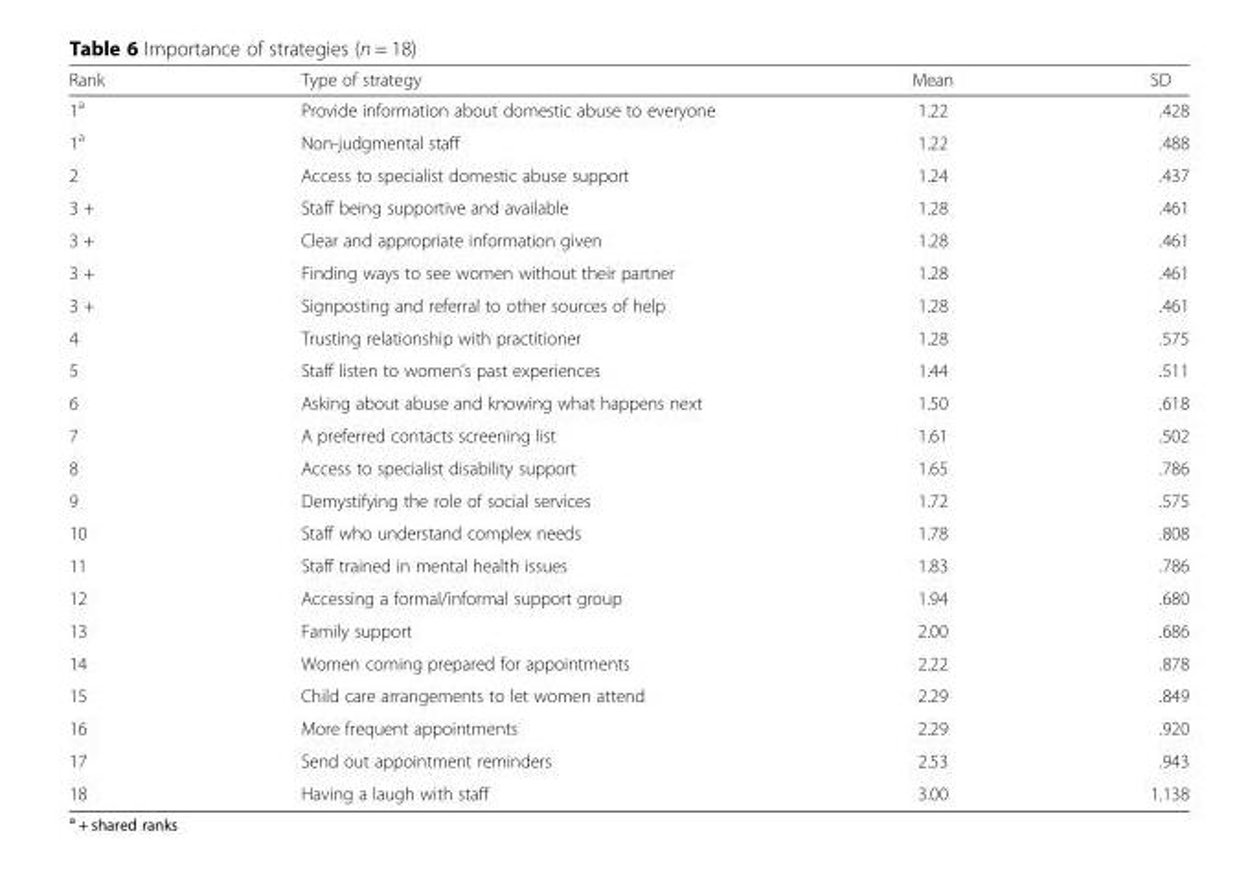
<table><thead><tr><td>Rank</td><td>Type of strategy</td><td>Mean</td><td>SD</td></tr></thead><tbody><tr><td>1<sup>a</sup></td><td>Provide information about domestic abuse to everyone</td><td>1.22</td><td>.428</td></tr><tr><td>1<sup>a</sup></td><td>Non-judgmental staff</td><td>1.22</td><td>.488</td></tr><tr><td>2</td><td>Access to specialist domestic abuse support</td><td>1.24</td><td>.437</td></tr><tr><td>3 +</td><td>Staff being supportive and available</td><td>1.28</td><td>.461</td></tr><tr><td>3 +</td><td>Clear and appropriate information given</td><td>1.28</td><td>.461</td></tr><tr><td>3 +</td><td>Finding ways to see women without their partner</td><td>1.28</td><td>.461</td></tr><tr><td>3 +</td><td>Signposting and referral to other sources of help</td><td>1.28</td><td>.461</td></tr><tr><td>4</td><td>Trusting relationship with practitioner</td><td>1.28</td><td>.575</td></tr><tr><td>5</td><td>Staff listen to women’s past experiences</td><td>1.44</td><td>.511</td></tr><tr><td>6</td><td>Asking about abuse and knowing what happens next</td><td>1.50</td><td>.618</td></tr><tr><td>7</td><td>A preferred contacts screening list</td><td>1.61</td><td>.502</td></tr><tr><td>8</td><td>Access to specialist disability support</td><td>1.65</td><td>.786</td></tr><tr><td>9</td><td>Demystifying the role of social services</td><td>1.72</td><td>.575</td></tr><tr><td>10</td><td>Staff who understand complex needs</td><td>1.78</td><td>.808</td></tr><tr><td>11</td><td>Staff trained in mental health issues</td><td>1.83</td><td>.786</td></tr><tr><td>12</td><td>Accessing a formal/informal support group</td><td>1.94</td><td>.680</td></tr><tr><td>13</td><td>Family support</td><td>2.00</td><td>.686</td></tr><tr><td>14</td><td>Women coming prepared for appointments</td><td>2.22</td><td>.878</td></tr><tr><td>15</td><td>Child care arrangements to let women attend</td><td>2.29</td><td>.849</td></tr><tr><td>16</td><td>More frequent appointments</td><td>2.29</td><td>.920</td></tr><tr><td>17</td><td>Send out appointment reminders</td><td>2.53</td><td>.943</td></tr><tr><td>18</td><td>Having a laugh with staff</td><td>3.00</td><td>1.138</td></tr></tbody></table>